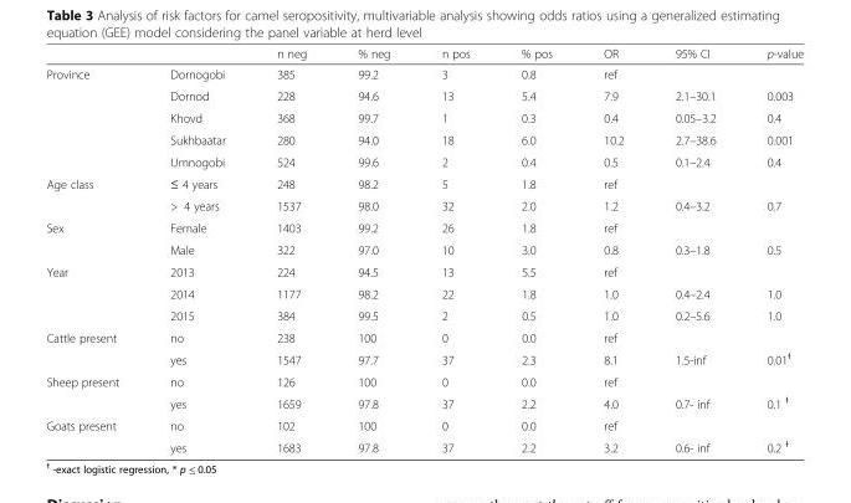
<table><thead><tr><td></td><td></td><td>n neg</td><td>% neg</td><td>n pos</td><td>% pos</td><td>OR</td><td>95% CI</td><td>p-value</td></tr></thead><tbody><tr><td rowspan="5">Province</td><td>Dornogobi</td><td>385</td><td>99.2</td><td>3</td><td>0.8</td><td>ref</td><td></td><td></td></tr><tr><td>Dornod</td><td>228</td><td>94.6</td><td>13</td><td>5.4</td><td>7.9</td><td>2.1–30.1</td><td>0.003</td></tr><tr><td>Khovd</td><td>368</td><td>99.7</td><td>1</td><td>0.3</td><td>0.4</td><td>0.05–3.2</td><td>0.4</td></tr><tr><td>Sukhbaatar</td><td>280</td><td>94.0</td><td>18</td><td>6.0</td><td>10.2</td><td>2.7–38.6</td><td>0.001</td></tr><tr><td>Umnogobi</td><td>524</td><td>99.6</td><td>2</td><td>0.4</td><td>0.5</td><td>0.1–2.4</td><td>0.4</td></tr><tr><td rowspan="2">Age class</td><td>≤ 4 years</td><td>248</td><td>98.2</td><td>5</td><td>1.8</td><td>ref</td><td></td><td></td></tr><tr><td>&gt; 4 years</td><td>1537</td><td>98.0</td><td>32</td><td>2.0</td><td>1.2</td><td>0.4–3.2</td><td>0.7</td></tr><tr><td rowspan="2">Sex</td><td>Female</td><td>1403</td><td>99.2</td><td>26</td><td>1.8</td><td>ref</td><td></td><td></td></tr><tr><td>Male</td><td>322</td><td>97.0</td><td>10</td><td>3.0</td><td>0.8</td><td>0.3–1.8</td><td>0.5</td></tr><tr><td rowspan="3">Year</td><td>2013</td><td>224</td><td>94.5</td><td>13</td><td>5.5</td><td>ref</td><td></td><td></td></tr><tr><td>2014</td><td>1177</td><td>98.2</td><td>22</td><td>1.8</td><td>1.0</td><td>0.4–2.4</td><td>1.0</td></tr><tr><td>2015</td><td>384</td><td>99.5</td><td>2</td><td>0.5</td><td>1.0</td><td>0.2–5.6</td><td>1.0</td></tr><tr><td rowspan="2">Cattle present</td><td>no</td><td>238</td><td>100</td><td>0</td><td>0.0</td><td>ref</td><td></td><td></td></tr><tr><td>yes</td><td>1547</td><td>97.7</td><td>37</td><td>2.3</td><td>8.1</td><td>1.5-inf</td><td>0.01<sup>Ɨ</sup></td></tr><tr><td rowspan="2">Sheep present</td><td>no</td><td>126</td><td>100</td><td>0</td><td>0.0</td><td>ref</td><td></td><td></td></tr><tr><td>yes</td><td>1659</td><td>97.8</td><td>37</td><td>2.2</td><td>4.0</td><td>0.7- inf</td><td>0.1 <sup>Ɨ</sup></td></tr><tr><td rowspan="2">Goats present</td><td>no</td><td>102</td><td>100</td><td>0</td><td>0.0</td><td>ref</td><td></td><td></td></tr><tr><td>yes</td><td>1683</td><td>97.8</td><td>37</td><td>2.2</td><td>3.2</td><td>0.6- inf</td><td>0.2 <sup>Ɨ</sup></td></tr></tbody></table>